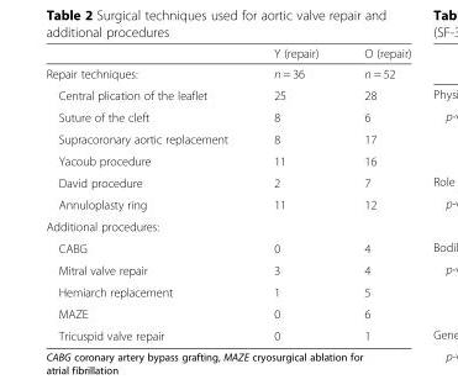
<table><thead><tr><td></td><td>Y (repair)</td><td>O (repair)</td></tr></thead><tbody><tr><td>Repair techniques:</td><td>n = 36</td><td>n = 52</td></tr><tr><td>Central plication of the leaflet</td><td>25</td><td>28</td></tr><tr><td>Suture of the cleft</td><td>8</td><td>6</td></tr><tr><td>Supracoronary aortic replacement</td><td>8</td><td>17</td></tr><tr><td>Yacoub procedure</td><td>11</td><td>16</td></tr><tr><td>David procedure</td><td>2</td><td>7</td></tr><tr><td>Annuloplasty ring</td><td>11</td><td>12</td></tr><tr><td colspan="3">Additional procedures:</td></tr><tr><td>CABG</td><td>0</td><td>4</td></tr><tr><td>Mitral valve repair</td><td>3</td><td>4</td></tr><tr><td>Hemiarch replacement</td><td>1</td><td>5</td></tr><tr><td>MAZE</td><td>0</td><td>6</td></tr><tr><td>Tricuspid valve repair</td><td>0</td><td>1</td></tr></tbody></table>